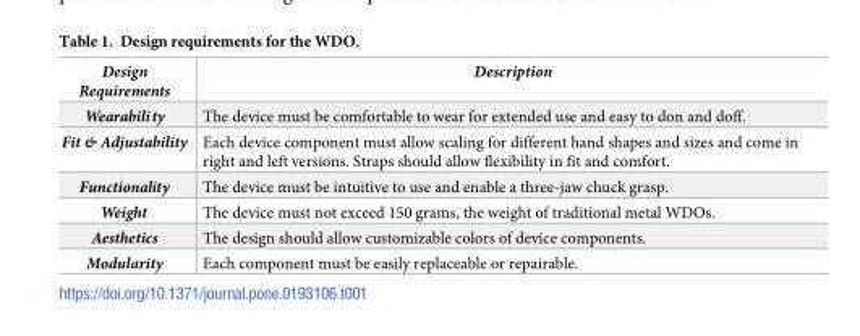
<table><thead><tr><td>Design Requirements</td><td>Description</td></tr></thead><tbody><tr><td>Wearability</td><td>The device must be comfortable to wear for extended use and easy to don and doff.</td></tr><tr><td>Fit &amp; Adjustability</td><td>Each device component must allow scaling for different hand shapes and sizes and come in right and left versions. Straps should allow flexibility in fit and comfort.</td></tr><tr><td>Functionality</td><td>The device must be intuitive to use and enable a three-jaw chuck grasp.</td></tr><tr><td>Weight</td><td>The device must not exceed 150 grams, the weight of traditional metal WDOs.</td></tr><tr><td>Aesthetics</td><td>The design should allow customizable colors of device components.</td></tr><tr><td>Modularity</td><td>Each component must be easily replaceable or repairable.</td></tr></tbody></table>